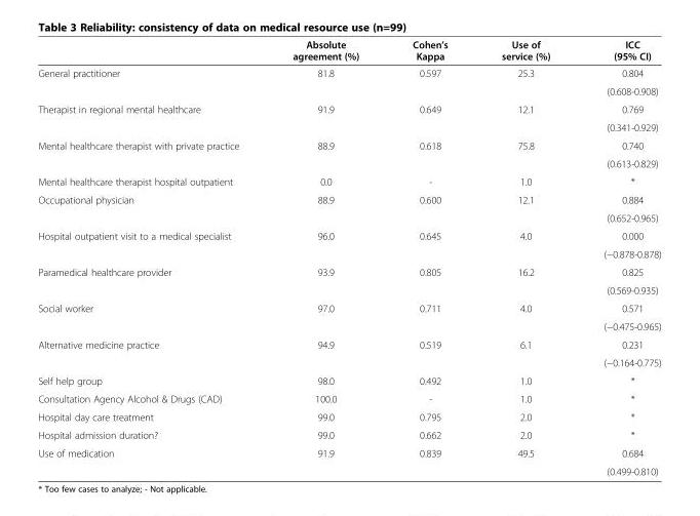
<table><thead><tr><td></td><td>Absolute agreement (%)</td><td>Cohen’s Kappa</td><td>Use of service (%)</td><td>ICC (95% CI)</td></tr></thead><tbody><tr><td rowspan="2">General practitioner</td><td rowspan="2">81.8</td><td rowspan="2">0.597</td><td rowspan="2">25.3</td><td>0.804</td></tr><tr><td>(0.608-0.908)</td></tr><tr><td rowspan="2">Therapist in regional mental healthcare</td><td rowspan="2">91.9</td><td rowspan="2">0.649</td><td rowspan="2">12.1</td><td>0.769</td></tr><tr><td>(0.341-0.929)</td></tr><tr><td rowspan="2">Mental healthcare therapist with private practice</td><td rowspan="2">88.9</td><td rowspan="2">0.618</td><td rowspan="2">75.8</td><td>0.740</td></tr><tr><td>(0.613-0.829)</td></tr><tr><td>Mental healthcare therapist hospital outpatient</td><td>0.0</td><td>-</td><td>1.0</td><td>*</td></tr><tr><td rowspan="2">Occupational physician</td><td rowspan="2">88.9</td><td rowspan="2">0.600</td><td rowspan="2">12.1</td><td>0.884</td></tr><tr><td>(0.652-0.965)</td></tr><tr><td rowspan="2">Hospital outpatient visit to a medical specialist</td><td rowspan="2">96.0</td><td rowspan="2">0.645</td><td rowspan="2">4.0</td><td>0.000</td></tr><tr><td>(−0.878-0.878)</td></tr><tr><td rowspan="2">Paramedical healthcare provider</td><td rowspan="2">93.9</td><td rowspan="2">0.805</td><td rowspan="2">16.2</td><td>0.825</td></tr><tr><td>(0.569-0.935)</td></tr><tr><td rowspan="2">Social worker</td><td rowspan="2">97.0</td><td rowspan="2">0.711</td><td rowspan="2">4.0</td><td>0.571</td></tr><tr><td>(−0.475-0.965)</td></tr><tr><td rowspan="2">Alternative medicine practice</td><td rowspan="2">94.9</td><td rowspan="2">0.519</td><td rowspan="2">6.1</td><td>0.231</td></tr><tr><td>(−0.164-0.775)</td></tr><tr><td>Self help group</td><td>98.0</td><td>0.492</td><td>1.0</td><td>*</td></tr><tr><td>Consultation Agency Alcohol &amp; Drugs (CAD)</td><td>100.0</td><td>-</td><td>1.0</td><td>*</td></tr><tr><td>Hospital day care treatment</td><td>99.0</td><td>0.795</td><td>2.0</td><td>*</td></tr><tr><td>Hospital admission duration?</td><td>99.0</td><td>0.662</td><td>2.0</td><td>*</td></tr><tr><td rowspan="2">Use of medication</td><td rowspan="2">91.9</td><td rowspan="2">0.839</td><td rowspan="2">49.5</td><td>0.684</td></tr><tr><td>(0.499-0.810)</td></tr></tbody></table>